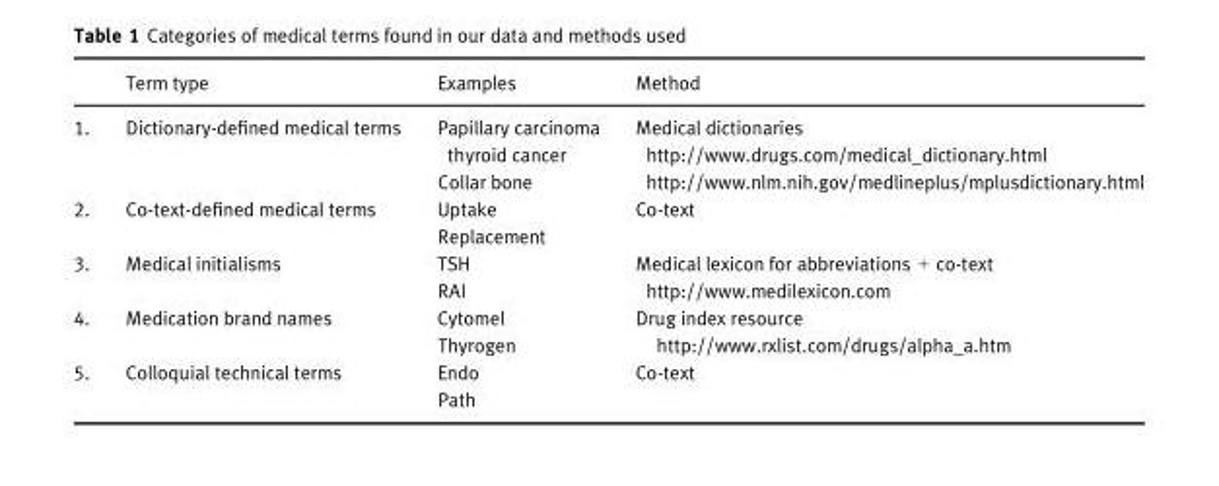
<table><thead><tr><td></td><td>Term type</td><td>Examples</td><td>Method</td></tr></thead><tbody><tr><td>1.</td><td>Dictionary-defined medical terms</td><td>Papillary carcinoma thyroid cancer Collar bone</td><td>Medical dictionaries http://www.drugs.com/medical_dictionary.html http://www.nlm.nih.gov/medlineplus/mplusdictionary.html</td></tr><tr><td>2.</td><td>Co-text-defined medical terms</td><td>Uptake Replacement</td><td>Co-text</td></tr><tr><td>3.</td><td>Medical initialisms</td><td>TSH RAI</td><td>Medical lexicon for abbreviations + co-text http://www.medilexicon.com</td></tr><tr><td>4.</td><td>Medication brand names</td><td>Cytomel Thyrogen</td><td>Drug index resource http://www.rxlist.com/drugs/alpha_a.htm</td></tr><tr><td>5.</td><td>Colloquial technical terms</td><td>Endo Path</td><td>Co-text</td></tr></tbody></table>